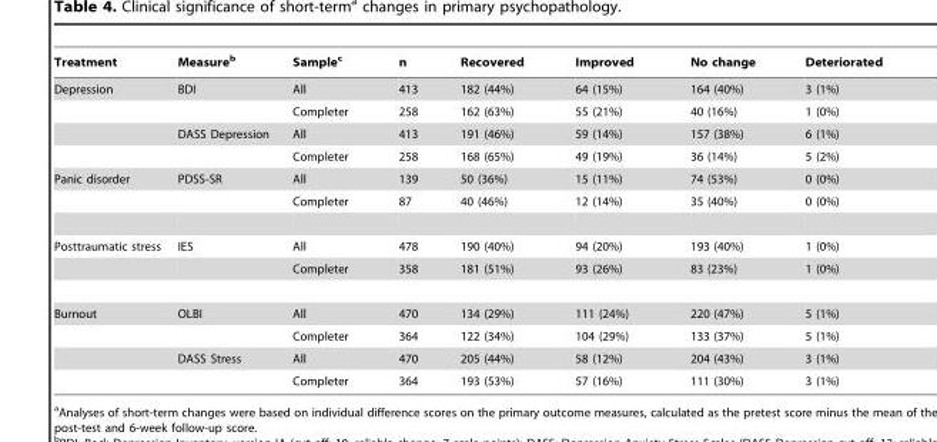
<table><thead><tr><td>Treatment</td><td>Measure<sup>b</sup></td><td>Sample<sup>c</sup></td><td>n</td><td>Recovered</td><td>Improved</td><td>No change</td><td>Deteriorated</td></tr></thead><tbody><tr><td rowspan="4">Depression</td><td>BDI</td><td>All</td><td>413</td><td>182 (44%)</td><td>64 (15%)</td><td>164 (40%)</td><td>3 (1%)</td></tr><tr><td></td><td>Completer</td><td>258</td><td>162 (63%)</td><td>55 (21%)</td><td>40 (16%)</td><td>1 (0%)</td></tr><tr><td>DASS Depression</td><td>All</td><td>413</td><td>191 (46%)</td><td>59 (14%)</td><td>157 (38%)</td><td>6 (1%)</td></tr><tr><td></td><td>Completer</td><td>258</td><td>168 (65%)</td><td>49 (19%)</td><td>36 (14%)</td><td>5 (2%)</td></tr><tr><td rowspan="2">Panic disorder</td><td>PDSS-SR</td><td>All</td><td>139</td><td>50 (36%)</td><td>15 (11%)</td><td>74 (53%)</td><td>0 (0%)</td></tr><tr><td></td><td>Completer</td><td>87</td><td>40 (46%)</td><td>12 (14%)</td><td>35 (40%)</td><td>0 (0%)</td></tr><tr><td rowspan="2">Posttraumatic stress</td><td>IES</td><td>All</td><td>478</td><td>190 (40%)</td><td>94 (20%)</td><td>193 (40%)</td><td>1 (0%)</td></tr><tr><td></td><td>Completer</td><td>358</td><td>181 (51%)</td><td>93 (26%)</td><td>83 (23%)</td><td>1 (0%)</td></tr><tr><td rowspan="4">Burnout</td><td>OLBI</td><td>All</td><td>470</td><td>134 (29%)</td><td>111 (24%)</td><td>220 (47%)</td><td>5 (1%)</td></tr><tr><td></td><td>Completer</td><td>364</td><td>122 (34%)</td><td>104 (29%)</td><td>133 (37%)</td><td>5 (1%)</td></tr><tr><td>DASS Stress</td><td>All</td><td>470</td><td>205 (44%)</td><td>58 (12%)</td><td>204 (43%)</td><td>3 (1%)</td></tr><tr><td></td><td>Completer</td><td>364</td><td>193 (53%)</td><td>57 (16%)</td><td>111 (30%)</td><td>3 (1%)</td></tr></tbody></table>